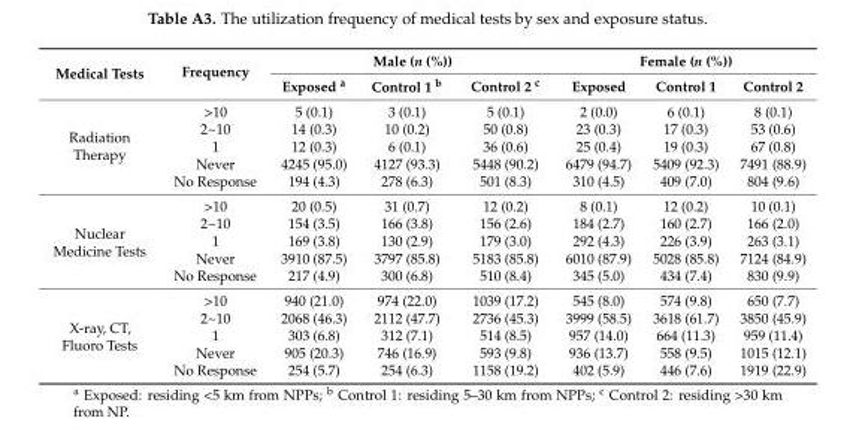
<table><thead><tr><td rowspan="2">Medical Tests</td><td rowspan="2">Frequency</td><td colspan="3">Male (n (%))</td><td colspan="3">Female (n (%))</td></tr><tr><td>Exposed <sup>a</sup></td><td>Control 1 <sup>b</sup></td><td>Control 2 <sup>c</sup></td><td>Exposed</td><td>Control 1</td><td>Control 2</td></tr></thead><tbody><tr><td rowspan="5">Radiation Therapy</td><td>&gt;10</td><td>5 (0.1)</td><td>3 (0.1)</td><td>5 (0.1)</td><td>2 (0.0)</td><td>6 (0.1)</td><td>8 (0.1)</td></tr><tr><td>2~10</td><td>14 (0.3)</td><td>10 (0.2)</td><td>50 (0.8)</td><td>23 (0.3)</td><td>17 (0.3)</td><td>53 (0.6)</td></tr><tr><td>1</td><td>12 (0.3)</td><td>6 (0.1)</td><td>36 (0.6)</td><td>25 (0.4)</td><td>19 (0.3)</td><td>67 (0.8)</td></tr><tr><td>Never</td><td>4245 (95.0)</td><td>4127 (93.3)</td><td>5448 (90.2)</td><td>6479 (94.7)</td><td>5409 (92.3)</td><td>7491 (88.9)</td></tr><tr><td>No Response</td><td>194 (4.3)</td><td>278 (6.3)</td><td>501 (8.3)</td><td>310 (4.5)</td><td>409 (7.0)</td><td>804 (9.6)</td></tr><tr><td rowspan="5">Nuclear Medicine Tests</td><td>&gt;10</td><td>20 (0.5)</td><td>31 (0.7)</td><td>12 (0.2)</td><td>8 (0.1)</td><td>12 (0.2)</td><td>10 (0.1)</td></tr><tr><td>2~10</td><td>154 (3.5)</td><td>166 (3.8)</td><td>156 (2.6)</td><td>184 (2.7)</td><td>160 (2.7)</td><td>166 (2.0)</td></tr><tr><td>1</td><td>169 (3.8)</td><td>130 (2.9)</td><td>179 (3.0)</td><td>292 (4.3)</td><td>226 (3.9)</td><td>263 (3.1)</td></tr><tr><td>Never</td><td>3910 (87.5)</td><td>3797 (85.8)</td><td>5183 (85.8)</td><td>6010 (87.9)</td><td>5028 (85.8)</td><td>7124 (84.9)</td></tr><tr><td>No Response</td><td>217 (4.9)</td><td>300 (6.8)</td><td>510 (8.4)</td><td>345 (5.0)</td><td>434 (7.4)</td><td>830 (9.9)</td></tr><tr><td rowspan="5">X-ray, CT, Fluoro Tests</td><td>&gt;10</td><td>940 (21.0)</td><td>974 (22.0)</td><td>1039 (17.2)</td><td>545 (8.0)</td><td>574 (9.8)</td><td>650 (7.7)</td></tr><tr><td>2~10</td><td>2068 (46.3)</td><td>2112 (47.7)</td><td>2736 (45.3)</td><td>3999 (58.5)</td><td>3618 (61.7)</td><td>3850 (45.9)</td></tr><tr><td>1</td><td>303 (6.8)</td><td>312 (7.1)</td><td>514 (8.5)</td><td>957 (14.0)</td><td>664 (11.3)</td><td>959 (11.4)</td></tr><tr><td>Never</td><td>905 (20.3)</td><td>746 (16.9)</td><td>593 (9.8)</td><td>936 (13.7)</td><td>558 (9.5)</td><td>1015 (12.1)</td></tr><tr><td>No Response</td><td>254 (5.7)</td><td>254 (6.3)</td><td>1158 (19.2)</td><td>402 (5.9)</td><td>446 (7.6)</td><td>1919 (22.9)</td></tr></tbody></table>